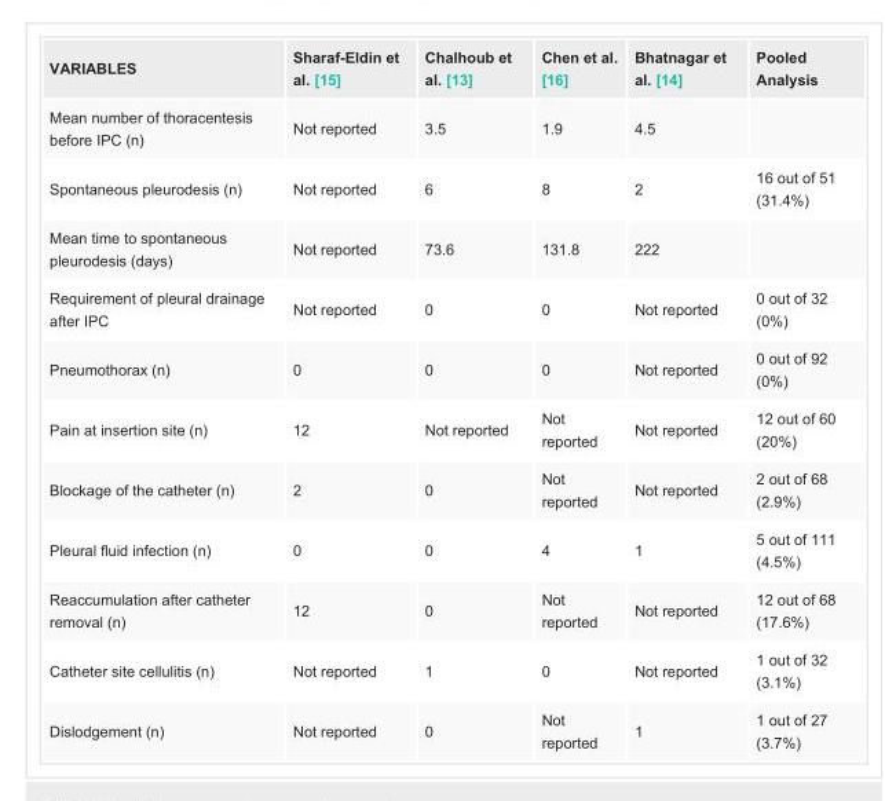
<table><tbody><tr><td>VARIABLES</td><td>Sharaf-Eldin et al. [15]</td><td>Chalhoub et al. [13]</td><td>Chen et al. [16]</td><td>Bhatnagar et al. [14]</td><td>Pooled Analysis</td></tr><tr><td>Mean number of thoracentesis before IPC (n)</td><td>Not reported</td><td>3.5</td><td>1.9</td><td>4.5</td><td></td></tr><tr><td>Spontaneous pleurodesis (n)</td><td>Not reported</td><td>6</td><td>8</td><td>2</td><td>16 out of 51 (31.4%)</td></tr><tr><td>Mean time to spontaneous pleurodesis (days)</td><td>Not reported</td><td>73.6</td><td>131.8</td><td>222</td><td></td></tr><tr><td>Requirement of pleural drainage after IPC</td><td>Not reported</td><td>0</td><td>0</td><td>Not reported</td><td>0 out of 32 (0%)</td></tr><tr><td>Pneumothorax (n)</td><td>0</td><td>0</td><td>0</td><td>Not reported</td><td>0 out of 92 (0%)</td></tr><tr><td>Pain at insertion site (n)</td><td>12</td><td>Not reported</td><td>Not reported</td><td>Not reported</td><td>12 out of 60 (20%)</td></tr><tr><td>Blockage of the catheter (n)</td><td>2</td><td>0</td><td>Not reported</td><td>Not reported</td><td>2 out of 68 (2.9%)</td></tr><tr><td>Pleural fluid infection (n)</td><td>0</td><td>0</td><td>4</td><td>1</td><td>5 out of 111 (4.5%)</td></tr><tr><td>Reaccumulation after catheter removal (n)</td><td>12</td><td>0</td><td>Not reported</td><td>Not reported</td><td>12 out of 68 (17.6%)</td></tr><tr><td>Catheter site cellulitis (n)</td><td>Not reported</td><td>1</td><td>0</td><td>Not reported</td><td>1 out of 32 (3.1%)</td></tr><tr><td>Dislodgement (n)</td><td>Not reported</td><td>0</td><td>Not reported</td><td>1</td><td>1 out of 27 (3.7%)</td></tr></tbody></table>